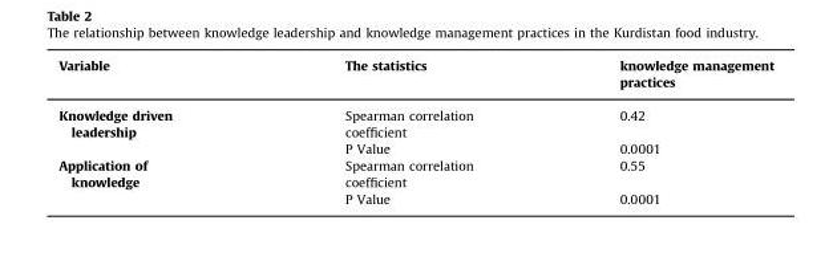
<table><thead><tr><td>Variable</td><td>The statistics</td><td>knowledge management practices</td></tr></thead><tbody><tr><td rowspan="2">Knowledge driven leadership</td><td>Spearman correlation coefficient</td><td>0.42</td></tr><tr><td>P Value</td><td>0.0001</td></tr><tr><td rowspan="2">Application of knowledge</td><td>Spearman correlation coefficient</td><td>0.55</td></tr><tr><td>P Value</td><td>0.0001</td></tr></tbody></table>